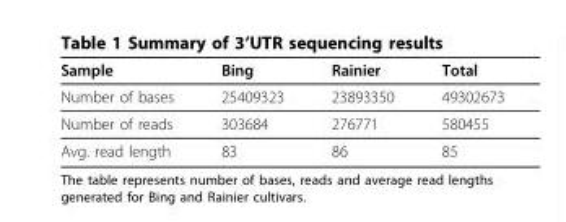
<table><thead><tr><td>Sample</td><td>Bing</td><td>Rainier</td><td>Total</td></tr></thead><tbody><tr><td>Number of bases</td><td>25409323</td><td>23893350</td><td>49302673</td></tr><tr><td>Number of reads</td><td>303684</td><td>276771</td><td>580455</td></tr><tr><td>Avg. read length</td><td>83</td><td>86</td><td>85</td></tr></tbody></table>